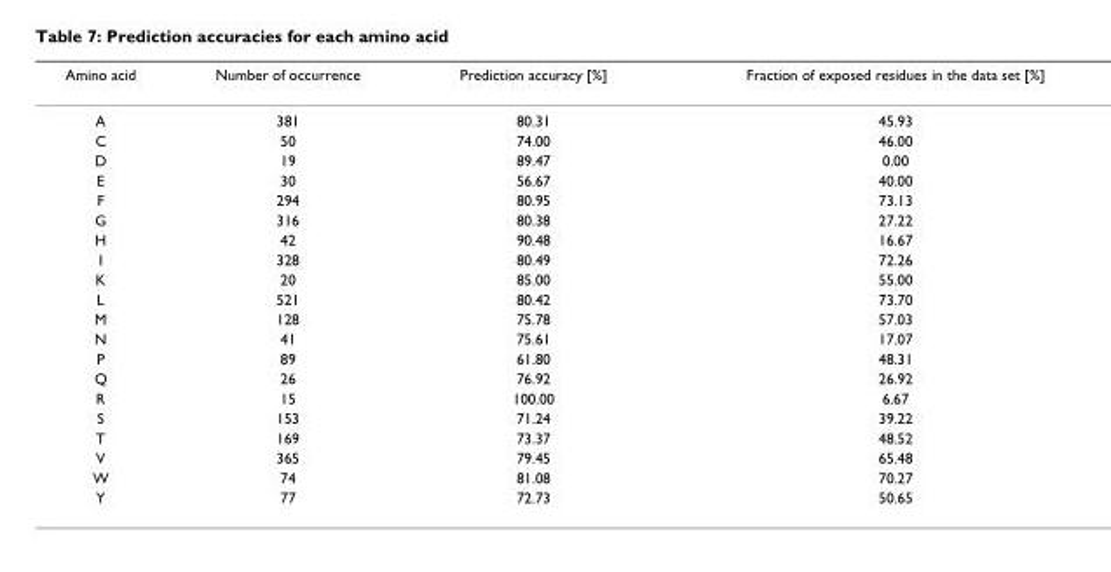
<table><thead><tr><td>Amino acid</td><td>Number of occurrence</td><td>Prediction accuracy [%]</td><td>Fraction of exposed residues in the data set [%]</td></tr></thead><tbody><tr><td>A</td><td>381</td><td>80.31</td><td>45.93</td></tr><tr><td>C</td><td>50</td><td>74.00</td><td>46.00</td></tr><tr><td>D</td><td>19</td><td>89.47</td><td>0.00</td></tr><tr><td>E</td><td>30</td><td>56.67</td><td>40.00</td></tr><tr><td>F</td><td>294</td><td>80.95</td><td>73.13</td></tr><tr><td>G</td><td>316</td><td>80.38</td><td>27.22</td></tr><tr><td>H</td><td>42</td><td>90.48</td><td>16.67</td></tr><tr><td>I</td><td>328</td><td>80.49</td><td>72.26</td></tr><tr><td>K</td><td>20</td><td>85.00</td><td>55.00</td></tr><tr><td>L</td><td>521</td><td>80.42</td><td>73.70</td></tr><tr><td>M</td><td>128</td><td>75.78</td><td>57.03</td></tr><tr><td>N</td><td>41</td><td>75.61</td><td>17.07</td></tr><tr><td>P</td><td>89</td><td>61.80</td><td>48.31</td></tr><tr><td>Q</td><td>26</td><td>76.92</td><td>26.92</td></tr><tr><td>R</td><td>15</td><td>100.00</td><td>6.67</td></tr><tr><td>S</td><td>153</td><td>71.24</td><td>39.22</td></tr><tr><td>T</td><td>169</td><td>73.37</td><td>48.52</td></tr><tr><td>V</td><td>365</td><td>79.45</td><td>65.48</td></tr><tr><td>W</td><td>74</td><td>81.08</td><td>70.27</td></tr><tr><td>Y</td><td>77</td><td>72.73</td><td>50.65</td></tr></tbody></table>